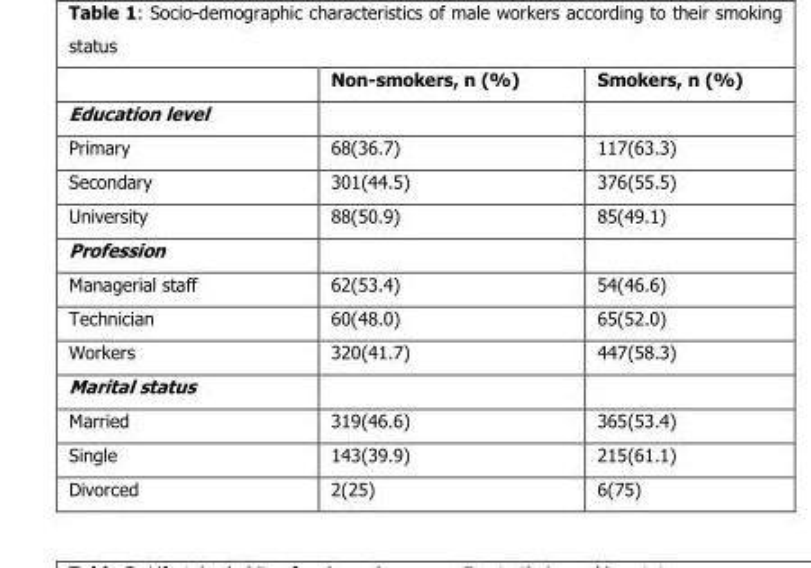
<table><thead><tr><td></td><td>Non-smokers, n (%)</td><td>Smokers, n (%)</td></tr></thead><tbody><tr><td colspan="3">Education level</td></tr><tr><td>Primary</td><td>68(36.7)</td><td>117(63.3)</td></tr><tr><td>Secondary</td><td>301(44.5)</td><td>376(55.5)</td></tr><tr><td>University</td><td>88(50.9)</td><td>85(49.1)</td></tr><tr><td colspan="3">Profession</td></tr><tr><td>Managerial staff</td><td>62(53.4)</td><td>54(46.6)</td></tr><tr><td>Technician</td><td>60(48.0)</td><td>65(52.0)</td></tr><tr><td>Workers</td><td>320(41.7)</td><td>447(58.3)</td></tr><tr><td colspan="3">Marital status</td></tr><tr><td>Married</td><td>319(46.6)</td><td>365(53.4)</td></tr><tr><td>Single</td><td>143(39.9)</td><td>215(61.1)</td></tr><tr><td>Divorced</td><td>2(25)</td><td>6(75)</td></tr></tbody></table>